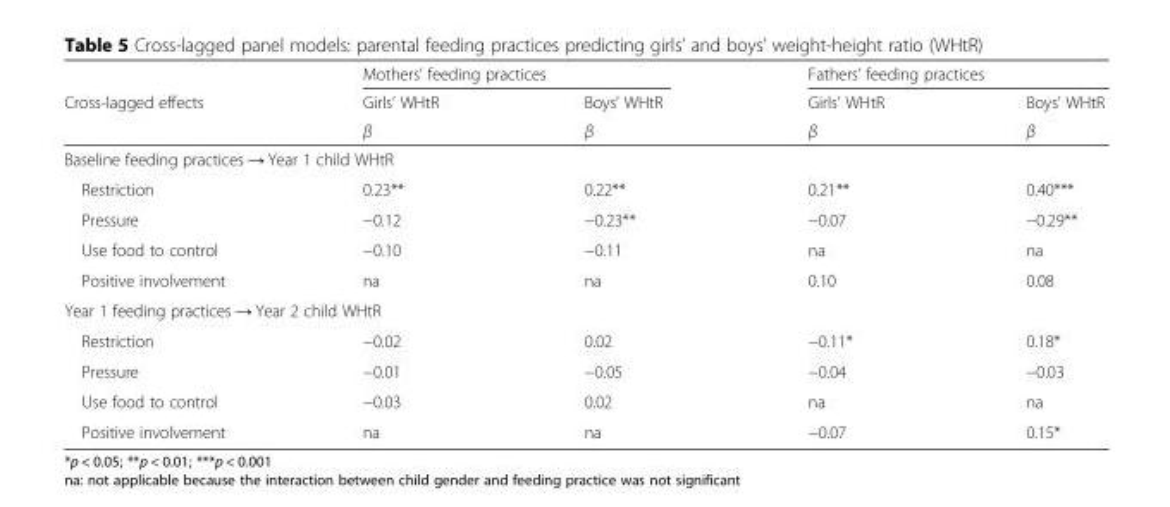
<table><thead><tr><td rowspan="3">Cross-lagged effects</td><td colspan="2">Mothers’ feeding practices</td><td colspan="2">Fathers’ feeding practices</td></tr><tr><td rowspan="2">Girls’ WHtR β</td><td rowspan="2">Boys’ WHtR β</td><td rowspan="2">Girls’ WHtR β</td><td rowspan="2">Boys’ WHtR β</td></tr><tr></tr></thead><tbody><tr><td colspan="5">Baseline feeding practices → Year 1 child WHtR</td></tr><tr><td>Restriction</td><td>0.23**</td><td>0.22**</td><td>0.21**</td><td>0.40***</td></tr><tr><td>Pressure</td><td>−0.12</td><td>−0.23**</td><td>−0.07</td><td>−0.29**</td></tr><tr><td>Use food to control</td><td>−0.10</td><td>−0.11</td><td>na</td><td>na</td></tr><tr><td>Positive involvement</td><td>na</td><td>na</td><td>0.10</td><td>0.08</td></tr><tr><td colspan="5">Year 1 feeding practices → Year 2 child WHtR</td></tr><tr><td>Restriction</td><td>−0.02</td><td>0.02</td><td>−0.11*</td><td>0.18*</td></tr><tr><td>Pressure</td><td>−0.01</td><td>−0.05</td><td>−0.04</td><td>−0.03</td></tr><tr><td>Use food to control</td><td>−0.03</td><td>0.02</td><td>na</td><td>na</td></tr><tr><td>Positive involvement</td><td>na</td><td>na</td><td>−0.07</td><td>0.15*</td></tr></tbody></table>